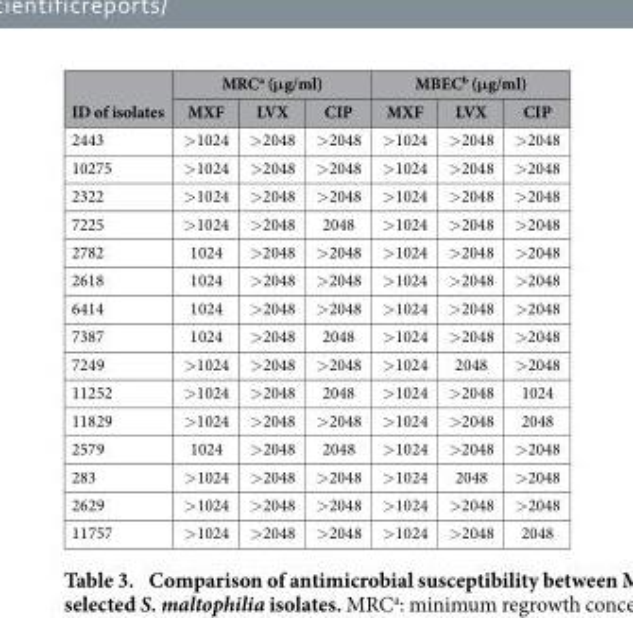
<table><thead><tr><td rowspan="2">ID of isolates</td><td colspan="3">MRC<sup>a</sup> (μg/ml)</td><td colspan="3">MBEC<sup>b</sup> (μg/ml)</td></tr><tr><td>MXF</td><td>LVX</td><td>CIP</td><td>MXF</td><td>LVX</td><td>CIP</td></tr></thead><tbody><tr><td>2443</td><td>&gt; 1024</td><td>&gt; 2048</td><td>&gt; 2048</td><td>&gt; 1024</td><td>&gt; 2048</td><td>&gt; 2048</td></tr><tr><td>10275</td><td>&gt; 1024</td><td>&gt; 2048</td><td>&gt; 2048</td><td>&gt; 1024</td><td>&gt; 2048</td><td>&gt; 2048</td></tr><tr><td>2322</td><td>&gt; 1024</td><td>&gt; 2048</td><td>&gt; 2048</td><td>&gt; 1024</td><td>&gt; 2048</td><td>&gt; 2048</td></tr><tr><td>7225</td><td>&gt; 1024</td><td>&gt; 2048</td><td>2048</td><td>&gt; 1024</td><td>&gt; 2048</td><td>&gt; 2048</td></tr><tr><td>2782</td><td>1024</td><td>&gt; 2048</td><td>&gt; 2048</td><td>&gt; 1024</td><td>&gt; 2048</td><td>&gt; 2048</td></tr><tr><td>2618</td><td>1024</td><td>&gt; 2048</td><td>&gt; 2048</td><td>&gt; 1024</td><td>&gt; 2048</td><td>&gt; 2048</td></tr><tr><td>6414</td><td>1024</td><td>&gt; 2048</td><td>&gt; 2048</td><td>&gt; 1024</td><td>&gt; 2048</td><td>&gt; 2048</td></tr><tr><td>7387</td><td>1024</td><td>&gt; 2048</td><td>2048</td><td>&gt; 1024</td><td>&gt; 2048</td><td>&gt; 2048</td></tr><tr><td>7249</td><td>&gt; 1024</td><td>&gt; 2048</td><td>&gt; 2048</td><td>&gt; 1024</td><td>2048</td><td>&gt; 2048</td></tr><tr><td>11252</td><td>&gt; 1024</td><td>&gt; 2048</td><td>2048</td><td>&gt; 1024</td><td>&gt; 2048</td><td>1024</td></tr><tr><td>11829</td><td>&gt; 1024</td><td>&gt; 2048</td><td>&gt; 2048</td><td>&gt; 1024</td><td>&gt; 2048</td><td>2048</td></tr><tr><td>2579</td><td>1024</td><td>&gt; 2048</td><td>2048</td><td>&gt; 1024</td><td>&gt; 2048</td><td>&gt; 2048</td></tr><tr><td>283</td><td>&gt; 1024</td><td>&gt; 2048</td><td>&gt; 2048</td><td>&gt; 1024</td><td>2048</td><td>&gt; 2048</td></tr><tr><td>2629</td><td>&gt; 1024</td><td>&gt; 2048</td><td>&gt; 2048</td><td>&gt; 1024</td><td>&gt; 2048</td><td>&gt; 2048</td></tr><tr><td>11757</td><td>&gt; 1024</td><td>&gt; 2048</td><td>&gt; 2048</td><td>&gt; 1024</td><td>&gt; 2048</td><td>2048</td></tr></tbody></table>